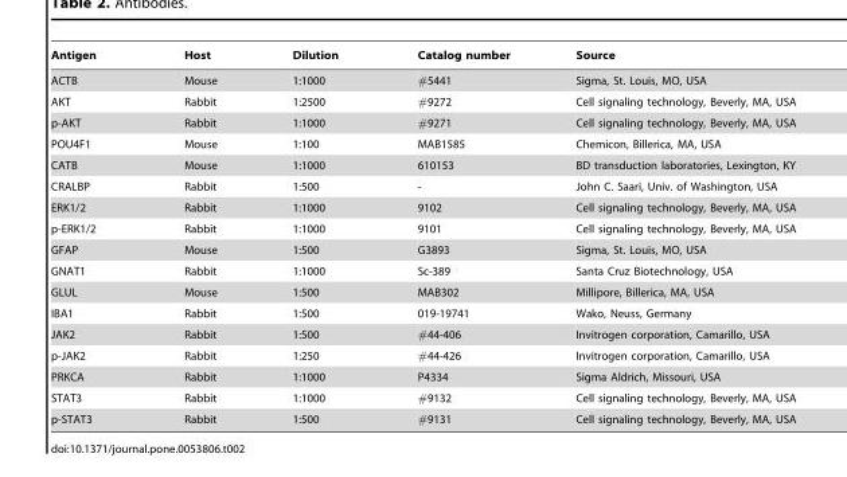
<table><thead><tr><td>Antigen</td><td>Host</td><td>Dilution</td><td>Catalog number</td><td>Source</td></tr></thead><tbody><tr><td>ACTB</td><td>Mouse</td><td>1:1000</td><td>#5441</td><td>Sigma, St. Louis, MO, USA</td></tr><tr><td>AKT</td><td>Rabbit</td><td>1:2500</td><td>#9272</td><td>Cell signaling technology, Beverly, MA, USA</td></tr><tr><td>p-AKT</td><td>Rabbit</td><td>1:1000</td><td>#9271</td><td>Cell signaling technology, Beverly, MA, USA</td></tr><tr><td>POU4F1</td><td>Mouse</td><td>1:100</td><td>MAB1585</td><td>Chemicon, Billerica, MA, USA</td></tr><tr><td>CATB</td><td>Mouse</td><td>1:1000</td><td>610153</td><td>BD transduction laboratories, Lexington, KY</td></tr><tr><td>CRALBP</td><td>Rabbit</td><td>1:500</td><td>-</td><td>John C. Saari, Univ. of Washington, USA</td></tr><tr><td>ERK1/2</td><td>Rabbit</td><td>1:1000</td><td>9102</td><td>Cell signaling technology, Beverly, MA, USA</td></tr><tr><td>p-ERK1/2</td><td>Rabbit</td><td>1:1000</td><td>9101</td><td>Cell signaling technology, Beverly, MA, USA</td></tr><tr><td>GFAP</td><td>Mouse</td><td>1:500</td><td>G3893</td><td>Sigma, St. Louis, MO, USA</td></tr><tr><td>GNAT1</td><td>Rabbit</td><td>1:1000</td><td>Sc-389</td><td>Santa Cruz Biotechnology, USA</td></tr><tr><td>GLUL</td><td>Mouse</td><td>1:500</td><td>MAB302</td><td>Millipore, Billerica, MA, USA</td></tr><tr><td>IBA1</td><td>Rabbit</td><td>1:500</td><td>019-19741</td><td>Wako, Neuss, Germany</td></tr><tr><td>JAK2</td><td>Rabbit</td><td>1:500</td><td>#44-406</td><td>Invitrogen corporation, Camarillo, USA</td></tr><tr><td>p-JAK2</td><td>Rabbit</td><td>1:250</td><td>#44-426</td><td>Invitrogen corporation, Camarillo, USA</td></tr><tr><td>PRKCA</td><td>Rabbit</td><td>1:1000</td><td>P4334</td><td>Sigma Aldrich, Missouri, USA</td></tr><tr><td>STAT3</td><td>Rabbit</td><td>1:1000</td><td>#9132</td><td>Cell signaling technology, Beverly, MA, USA</td></tr><tr><td>p-STAT3</td><td>Rabbit</td><td>1:500</td><td>#9131</td><td>Cell signaling technology, Beverly, MA, USA</td></tr></tbody></table>